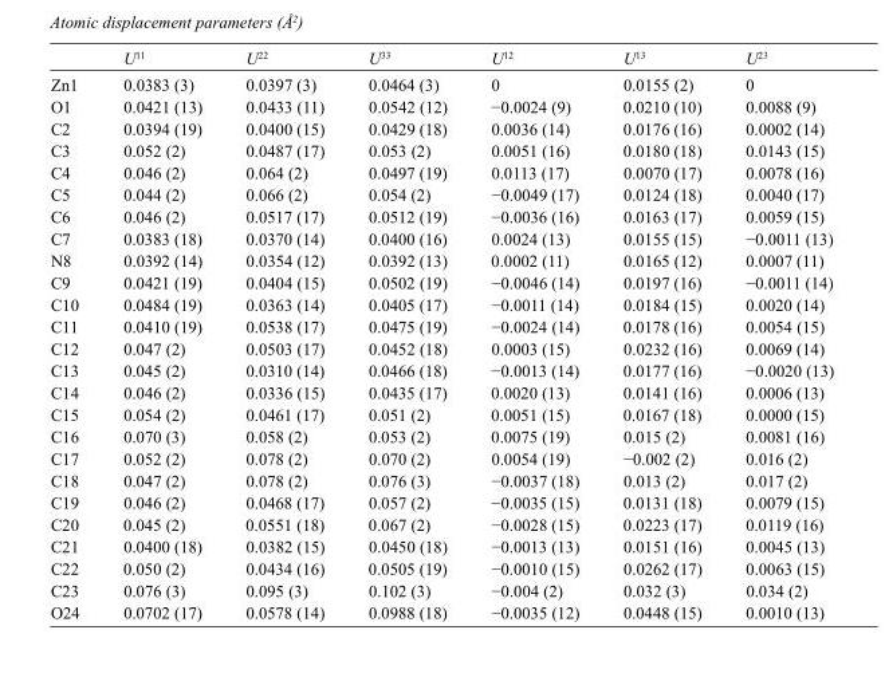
<table><thead><tr><td></td><td>U<sup>11</sup></td><td>U<sup>22</sup></td><td>U<sup>33</sup></td><td>U<sup>12</sup></td><td>U<sup>13</sup></td><td>U<sup>23</sup></td></tr></thead><tbody><tr><td>Zn1</td><td>0.0383 (3)</td><td>0.0397 (3)</td><td>0.0464 (3)</td><td>0</td><td>0.0155 (2)</td><td>0</td></tr><tr><td>O1</td><td>0.0421 (13)</td><td>0.0433 (11)</td><td>0.0542 (12)</td><td>−0.0024 (9)</td><td>0.0210 (10)</td><td>0.0088 (9)</td></tr><tr><td>C2</td><td>0.0394 (19)</td><td>0.0400 (15)</td><td>0.0429 (18)</td><td>0.0036 (14)</td><td>0.0176 (16)</td><td>0.0002 (14)</td></tr><tr><td>C3</td><td>0.052 (2)</td><td>0.0487 (17)</td><td>0.053 (2)</td><td>0.0051 (16)</td><td>0.0180 (18)</td><td>0.0143 (15)</td></tr><tr><td>C4</td><td>0.046 (2)</td><td>0.064 (2)</td><td>0.0497 (19)</td><td>0.0113 (17)</td><td>0.0070 (17)</td><td>0.0078 (16)</td></tr><tr><td>C5</td><td>0.044 (2)</td><td>0.066 (2)</td><td>0.054 (2)</td><td>−0.0049 (17)</td><td>0.0124 (18)</td><td>0.0040 (17)</td></tr><tr><td>C6</td><td>0.046 (2)</td><td>0.0517 (17)</td><td>0.0512 (19)</td><td>−0.0036 (16)</td><td>0.0163 (17)</td><td>0.0059 (15)</td></tr><tr><td>C7</td><td>0.0383 (18)</td><td>0.0370 (14)</td><td>0.0400 (16)</td><td>0.0024 (13)</td><td>0.0155 (15)</td><td>−0.0011 (13)</td></tr><tr><td>N8</td><td>0.0392 (14)</td><td>0.0354 (12)</td><td>0.0392 (13)</td><td>0.0002 (11)</td><td>0.0165 (12)</td><td>0.0007 (11)</td></tr><tr><td>C9</td><td>0.0421 (19)</td><td>0.0404 (15)</td><td>0.0502 (19)</td><td>−0.0046 (14)</td><td>0.0197 (16)</td><td>−0.0011 (14)</td></tr><tr><td>C10</td><td>0.0484 (19)</td><td>0.0363 (14)</td><td>0.0405 (17)</td><td>−0.0011 (14)</td><td>0.0184 (15)</td><td>0.0020 (14)</td></tr><tr><td>C11</td><td>0.0410 (19)</td><td>0.0538 (17)</td><td>0.0475 (19)</td><td>−0.0024 (14)</td><td>0.0178 (16)</td><td>0.0054 (15)</td></tr><tr><td>C12</td><td>0.047 (2)</td><td>0.0503 (17)</td><td>0.0452 (18)</td><td>0.0003 (15)</td><td>0.0232 (16)</td><td>0.0069 (14)</td></tr><tr><td>C13</td><td>0.045 (2)</td><td>0.0310 (14)</td><td>0.0466 (18)</td><td>−0.0013 (14)</td><td>0.0177 (16)</td><td>−0.0020 (13)</td></tr><tr><td>C14</td><td>0.046 (2)</td><td>0.0336 (15)</td><td>0.0435 (17)</td><td>0.0020 (13)</td><td>0.0141 (16)</td><td>0.0006 (13)</td></tr><tr><td>C15</td><td>0.054 (2)</td><td>0.0461 (17)</td><td>0.051 (2)</td><td>0.0051 (15)</td><td>0.0167 (18)</td><td>0.0000 (15)</td></tr><tr><td>C16</td><td>0.070 (3)</td><td>0.058 (2)</td><td>0.053 (2)</td><td>0.0075 (19)</td><td>0.015 (2)</td><td>0.0081 (16)</td></tr><tr><td>C17</td><td>0.052 (2)</td><td>0.078 (2)</td><td>0.070 (2)</td><td>0.0054 (19)</td><td>−0.002 (2)</td><td>0.016 (2)</td></tr><tr><td>C18</td><td>0.047 (2)</td><td>0.078 (2)</td><td>0.076 (3)</td><td>−0.0037 (18)</td><td>0.013 (2)</td><td>0.017 (2)</td></tr><tr><td>C19</td><td>0.046 (2)</td><td>0.0468 (17)</td><td>0.057 (2)</td><td>−0.0035 (15)</td><td>0.0131 (18)</td><td>0.0079 (15)</td></tr><tr><td>C20</td><td>0.045 (2)</td><td>0.0551 (18)</td><td>0.067 (2)</td><td>−0.0028 (15)</td><td>0.0223 (17)</td><td>0.0119 (16)</td></tr><tr><td>C21</td><td>0.0400 (18)</td><td>0.0382 (15)</td><td>0.0450 (18)</td><td>−0.0013 (13)</td><td>0.0151 (16)</td><td>0.0045 (13)</td></tr><tr><td>C22</td><td>0.050 (2)</td><td>0.0434 (16)</td><td>0.0505 (19)</td><td>−0.0010 (15)</td><td>0.0262 (17)</td><td>0.0063 (15)</td></tr><tr><td>C23</td><td>0.076 (3)</td><td>0.095 (3)</td><td>0.102 (3)</td><td>−0.004 (2)</td><td>0.032 (3)</td><td>0.034 (2)</td></tr><tr><td>O24</td><td>0.0702 (17)</td><td>0.0578 (14)</td><td>0.0988 (18)</td><td>−0.0035 (12)</td><td>0.0448 (15)</td><td>0.0010 (13)</td></tr></tbody></table>